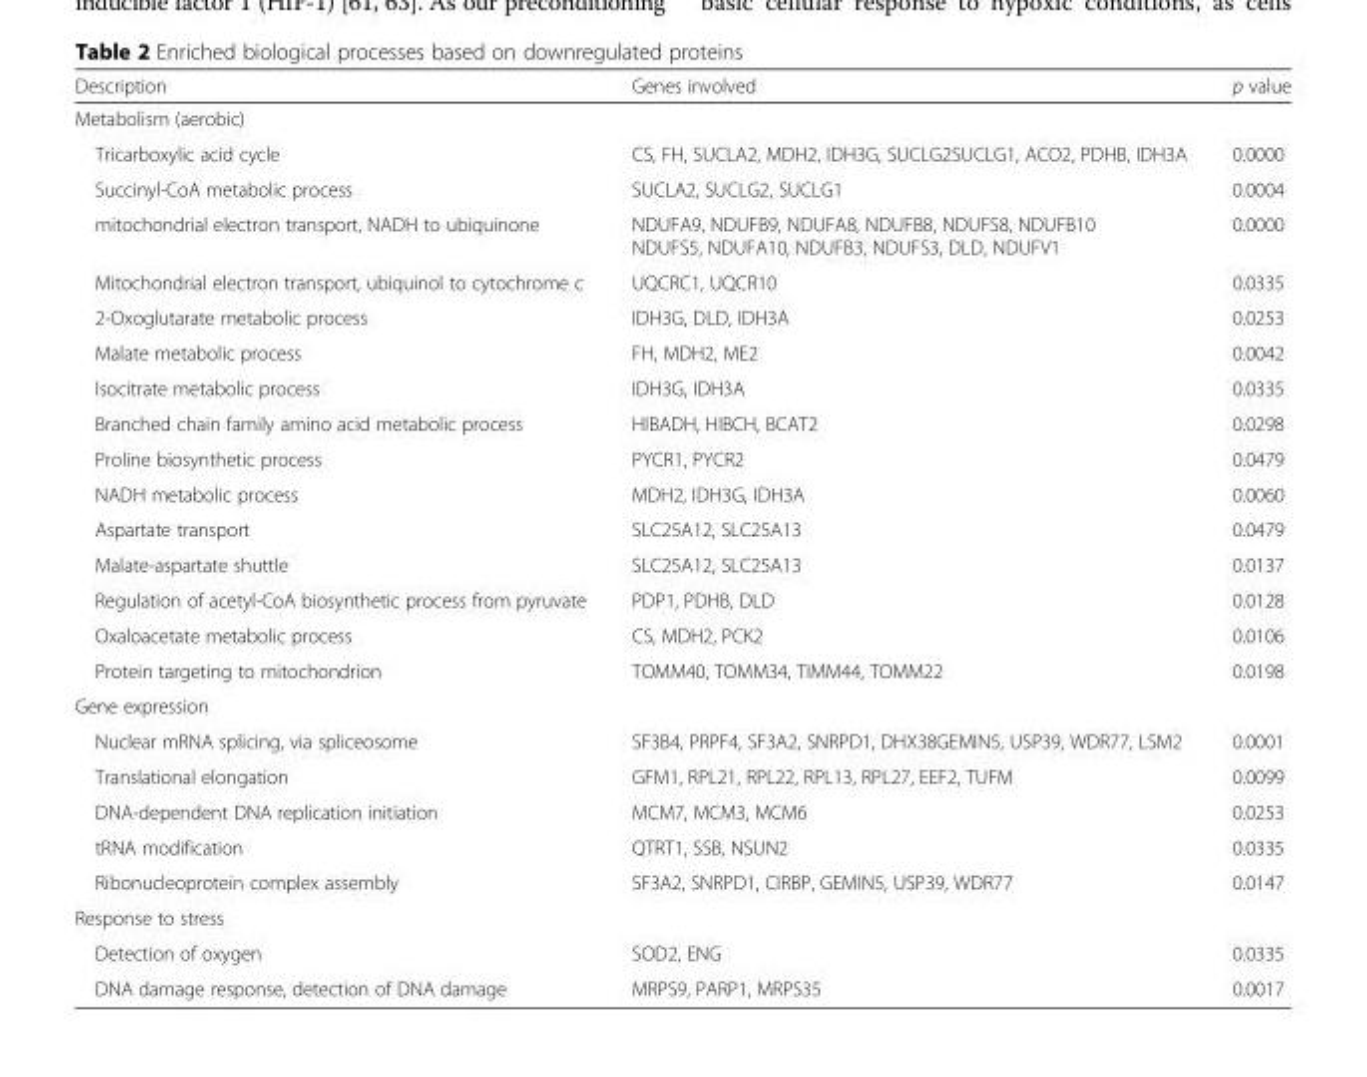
<table><thead><tr><td>Description</td><td>Genes involved</td><td>p value</td></tr></thead><tbody><tr><td colspan="3">Metabolism (aerobic)</td></tr><tr><td>Tricarboxylic acid cycle</td><td>CS, FH, SUCLA2, MDH2, IDH3G, SUCLG2SUCLG1, ACO2, PDHB, IDH3A</td><td>0.0000</td></tr><tr><td>Succinyl-CoA metabolic process</td><td>SUCLA2, SUCLG2, SUCLG1</td><td>0.0004</td></tr><tr><td>mitochondrial electron transport, NADH to ubiquinone</td><td>NDUFA9, NDUFB9, NDUFA8, NDUFB8, NDUFS8, NDUFB10 NDUFS5, NDUFA10, NDUFB3, NDUFS3, DLD, NDUFV1</td><td>0.0000</td></tr><tr><td>Mitochondrial electron transport, ubiquinol to cytochrome c</td><td>UQCRC1, UQCR10</td><td>0.0335</td></tr><tr><td>2-Oxoglutarate metabolic process</td><td>IDH3G, DLD, IDH3A</td><td>0.0253</td></tr><tr><td>Malate metabolic process</td><td>FH, MDH2, ME2</td><td>0.0042</td></tr><tr><td>Isocitrate metabolic process</td><td>IDH3G, IDH3A</td><td>0.0335</td></tr><tr><td>Branched chain family amino acid metabolic process</td><td>HIBADH, HIBCH, BCAT2</td><td>0.0298</td></tr><tr><td>Proline biosynthetic process</td><td>PYCR1, PYCR2</td><td>0.0479</td></tr><tr><td>NADH metabolic process</td><td>MDH2, IDH3G, IDH3A</td><td>0.0060</td></tr><tr><td>Aspartate transport</td><td>SLC25A12, SLC25A13</td><td>0.0479</td></tr><tr><td>Malate-aspartate shuttle</td><td>SLC25A12, SLC25A13</td><td>0.0137</td></tr><tr><td>Regulation of acetyl-CoA biosynthetic process from pyruvate</td><td>PDP1, PDHB, DLD</td><td>0.0128</td></tr><tr><td>Oxaloacetate metabolic process</td><td>CS, MDH2, PCK2</td><td>0.0106</td></tr><tr><td>Protein targeting to mitochondrion</td><td>TOMM40, TOMM34, TIMM44, TOMM22</td><td>0.0198</td></tr><tr><td colspan="3">Gene expression</td></tr><tr><td>Nuclear mRNA splicing, via spliceosome</td><td>SF3B4, PRPF4, SF3A2, SNRPD1, DHX38GEMIN5, USP39, WDR77, LSM2</td><td>0.0001</td></tr><tr><td>Translational elongation</td><td>GFM1, RPL21, RPL22, RPL13, RPL27, EEF2, TUFM</td><td>0.0099</td></tr><tr><td>DNA-dependent DNA replication initiation</td><td>MCM7, MCM3, MCM6</td><td>0.0253</td></tr><tr><td>tRNA modification</td><td>QTRT1, SSB, NSUN2</td><td>0.0335</td></tr><tr><td>Ribonucleoprotein complex assembly</td><td>SF3A2, SNRPD1, CIRBP, GEMIN5, USP39, WDR77</td><td>0.0147</td></tr><tr><td colspan="3">Response to stress</td></tr><tr><td>Detection of oxygen</td><td>SOD2, ENG</td><td>0.0335</td></tr><tr><td>DNA damage response, detection of DNA damage</td><td>MRPS9, PARP1, MRPS35</td><td>0.0017</td></tr></tbody></table>